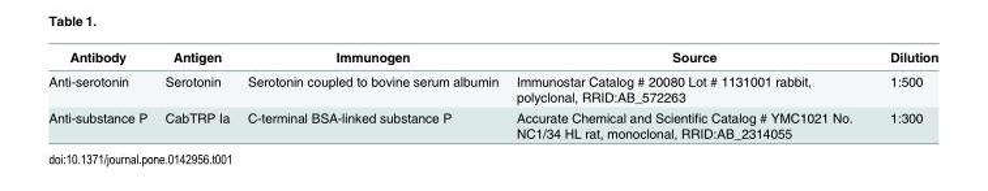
<table><thead><tr><td>Antibody</td><td>Antigen</td><td>Immunogen</td><td>Source</td><td>Dilution</td></tr></thead><tbody><tr><td>Anti-serotonin</td><td>Serotonin</td><td>Serotonin coupled to bovine serum albumin</td><td>Immunostar Catalog # 20080 Lot # 1131001 rabbit, polyclonal, RRID:AB_572263</td><td>1:500</td></tr><tr><td>Anti-substance P</td><td>CabTRP Ia</td><td>C-terminal BSA-linked substance P</td><td>Accurate Chemical and Scientific Catalog # YMC1021 No. NC1/34 HL rat, monoclonal, RRID:AB_2314055</td><td>1:300</td></tr></tbody></table>